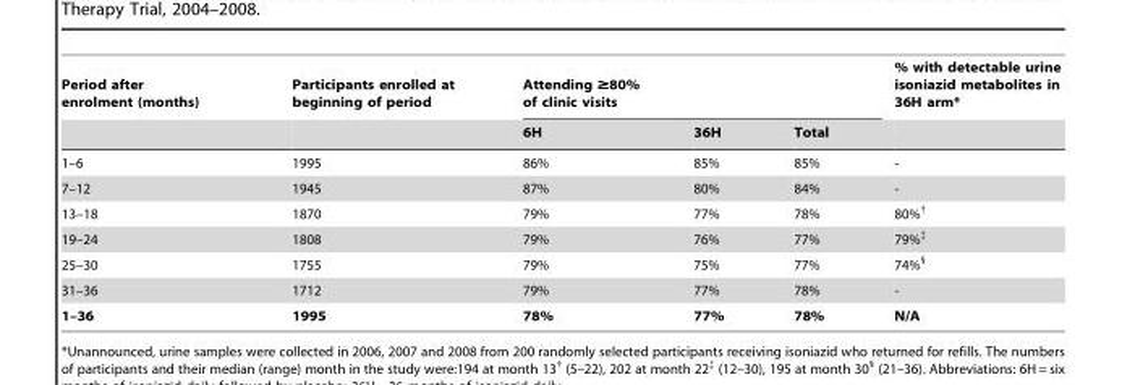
<table><thead><tr><td rowspan="2">Period after enrolment (months)</td><td rowspan="2">Participants enrolled at beginning of period</td><td colspan="3">Attending ≥80% of clinic visits</td><td rowspan="2">% with detectable urine isoniazid metabolites in 36H arm*</td></tr><tr><td>6H</td><td>36H</td><td>Total</td></tr></thead><tbody><tr><td>1–6</td><td>1995</td><td>86%</td><td>85%</td><td>85%</td><td>-</td></tr><tr><td>7–12</td><td>1945</td><td>87%</td><td>80%</td><td>84%</td><td>-</td></tr><tr><td>13–18</td><td>1870</td><td>79%</td><td>77%</td><td>78%</td><td>80%<sup>†</sup></td></tr><tr><td>19–24</td><td>1808</td><td>79%</td><td>76%</td><td>77%</td><td>79%<sup>‡</sup></td></tr><tr><td>25–30</td><td>1755</td><td>79%</td><td>75%</td><td>77%</td><td>74%<sup>§</sup></td></tr><tr><td>31–36</td><td>1712</td><td>79%</td><td>77%</td><td>78%</td><td>-</td></tr><tr><td>1–36</td><td>1995</td><td>78%</td><td>77%</td><td>78%</td><td>N/A</td></tr></tbody></table>